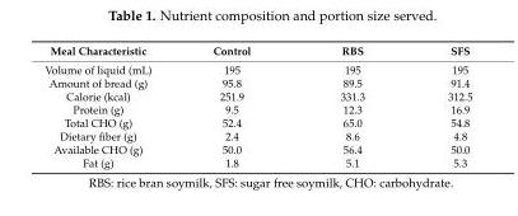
<table><thead><tr><td>Meal Characteristic</td><td>Control</td><td>RBS</td><td>SFS</td></tr></thead><tbody><tr><td>Volume of liquid (mL)</td><td>195</td><td>195</td><td>195</td></tr><tr><td>Amount of bread (g)</td><td>95.8</td><td>89.5</td><td>91.4</td></tr><tr><td>Calorie (kcal)</td><td>251.9</td><td>331.3</td><td>312.5</td></tr><tr><td>Protein (g)</td><td>9.5</td><td>12.3</td><td>16.9</td></tr><tr><td>Total CHO (g)</td><td>52.4</td><td>65.0</td><td>54.8</td></tr><tr><td>Dietary fiber (g)</td><td>2.4</td><td>8.6</td><td>4.8</td></tr><tr><td>Available CHO (g)</td><td>50.0</td><td>56.4</td><td>50.0</td></tr><tr><td>Fat (g)</td><td>1.8</td><td>5.1</td><td>5.3</td></tr></tbody></table>